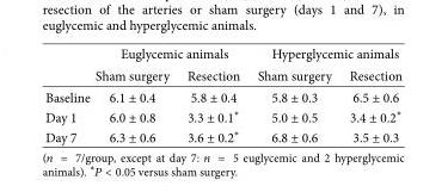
<table><thead><tr><td rowspan="2"></td><td colspan="2">Euglycemic animals</td><td colspan="2">Hyperglycemic animals</td></tr><tr><td>Sham surgery</td><td>Resection</td><td>Sham surgery</td><td>Resection</td></tr></thead><tbody><tr><td>Baseline</td><td>6.1 ± 0.4</td><td>5.8 ± 0.4</td><td>5.8 ± 0.3</td><td>6.5 ± 0.6</td></tr><tr><td>Day 1</td><td>6.0 ± 0.8</td><td>3.3 ± 0.1∗</td><td>5.0 ± 0.5</td><td>3.4 ± 0.2∗</td></tr><tr><td>Day 7</td><td>6.3 ± 0.6</td><td>3.6 ± 0.2∗</td><td>6.8 ± 0.6</td><td>3.5 ± 0.3</td></tr></tbody></table>